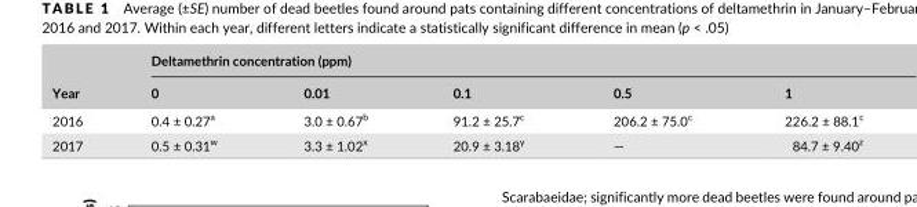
<table><thead><tr><td rowspan="2">Year</td><td colspan="5">Deltamethrin concentration (ppm)</td></tr><tr><td>0</td><td>0.01</td><td>0.1</td><td>0.5</td><td>1</td></tr></thead><tbody><tr><td>2016</td><td>0.4 ± 0.27<sup>a</sup></td><td>3.0 ± 0.67<sup>b</sup></td><td>91.2 ± 25.7<sup>c</sup></td><td>206.2 ± 75.0<sup>c</sup></td><td>226.2 ± 88.1<sup>c</sup></td></tr><tr><td>2017</td><td>0.5 ± 0.31<sup>w</sup></td><td>3.3 ± 1.02<sup>x</sup></td><td>20.9 ± 3.18<sup>y</sup></td><td>—</td><td>84.7 ± 9.40<sup>z</sup></td></tr></tbody></table>